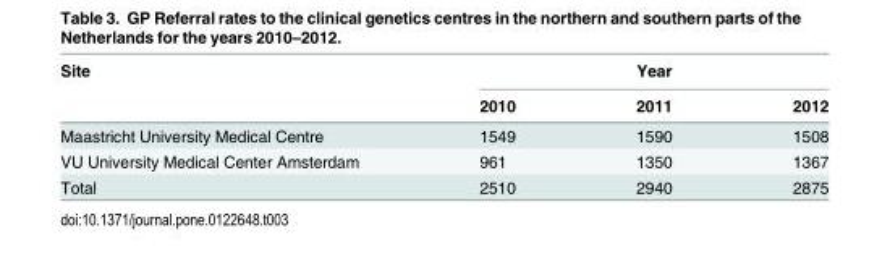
<table><thead><tr><td rowspan="2">Site</td><td colspan="3">Year</td></tr><tr><td>2010</td><td>2011</td><td>2012</td></tr></thead><tbody><tr><td>Maastricht University Medical Centre</td><td>1549</td><td>1590</td><td>1508</td></tr><tr><td>VU University Medical Center Amsterdam</td><td>961</td><td>1350</td><td>1367</td></tr><tr><td>Total</td><td>2510</td><td>2940</td><td>2875</td></tr></tbody></table>